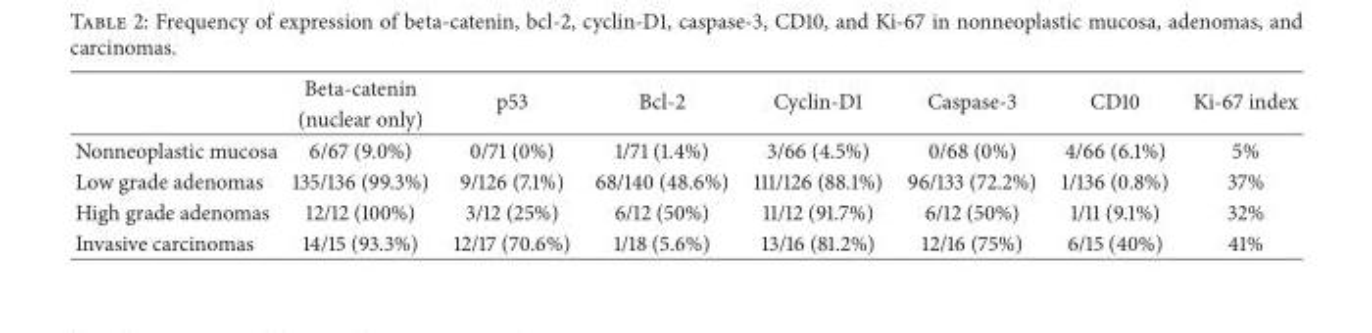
<table><thead><tr><td rowspan="2"></td><td rowspan="2">Beta-catenin (nuclear only)</td><td rowspan="2">p53</td><td rowspan="2">Bcl-2</td><td rowspan="2">Cyclin-D1</td><td rowspan="2">Caspase-3</td><td rowspan="2">CD10</td><td rowspan="2">Ki-67 index</td></tr><tr></tr></thead><tbody><tr><td>Nonneoplastic mucosa</td><td>6/67 (9.0%)</td><td>0/71 (0%)</td><td>1/71 (1.4%)</td><td>3/66 (4.5%)</td><td>0/68 (0%)</td><td>4/66 (6.1%)</td><td>5%</td></tr><tr><td>Low grade adenomas</td><td>135/136 (99.3%)</td><td>9/126 (7.1%)</td><td>68/140 (48.6%)</td><td>111/126 (88.1%)</td><td>96/133 (72.2%)</td><td>1/136 (0.8%)</td><td>37%</td></tr><tr><td>High grade adenomas</td><td>12/12 (100%)</td><td>3/12 (25%)</td><td>6/12 (50%)</td><td>11/12 (91.7%)</td><td>6/12 (50%)</td><td>1/11 (9.1%)</td><td>32%</td></tr><tr><td>Invasive carcinomas</td><td>14/15 (93.3%)</td><td>12/17 (70.6%)</td><td>1/18 (5.6%)</td><td>13/16 (81.2%)</td><td>12/16 (75%)</td><td>6/15 (40%)</td><td>41%</td></tr></tbody></table>